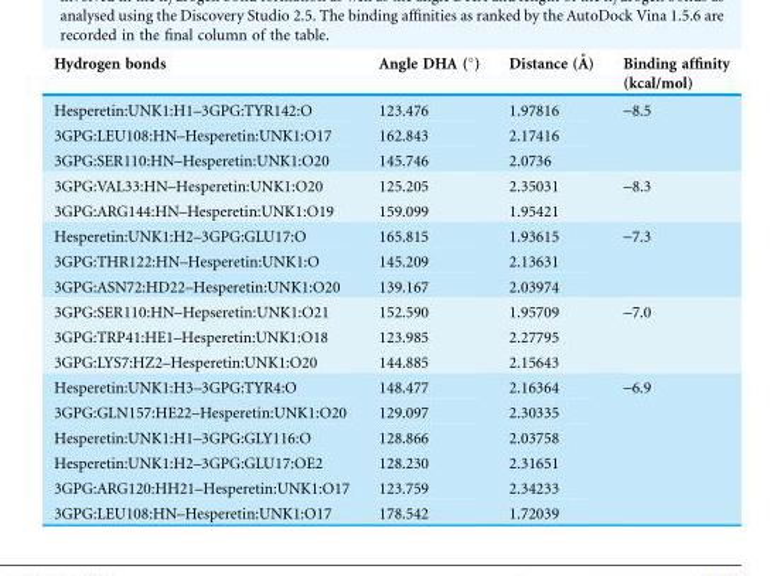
<table><thead><tr><td>Hydrogen bonds</td><td>Angle DHA (°)</td><td>Distance (A˚ )</td><td>Binding affinity (kcal/mol)</td></tr></thead><tbody><tr><td>Hesperetin:UNK1:H1–3GPG:TYR142:O</td><td>123.476</td><td>1.97816</td><td rowspan="3">-8.5</td></tr><tr><td>3GPG:LEU108:HN–Hesperetin:UNK1:O17</td><td>162.843</td><td>2.17416</td></tr><tr><td>3GPG:SER110:HN–Hesperetin:UNK1:O20</td><td>145.746</td><td>2.0736</td></tr><tr><td>3GPG:VAL33:HN–Hesperetin:UNK1:O20</td><td>125.205</td><td>2.35031</td><td rowspan="2">-8.3</td></tr><tr><td>3GPG:ARG144:HN–Hesperetin:UNK1:O19</td><td>159.099</td><td>1.95421</td></tr><tr><td>Hesperetin:UNK1:H2–3GPG:GLU17:O</td><td>165.815</td><td>1.93615</td><td rowspan="3">-7.3</td></tr><tr><td>3GPG:THR122:HN–Hesperetin:UNK1:O</td><td>145.209</td><td>2.13631</td></tr><tr><td>3GPG:ASN72:HD22–Hesperetin:UNK1:O20</td><td>139.167</td><td>2.03974</td></tr><tr><td>3GPG:SER110:HN–Hepseretin:UNK1:O21</td><td>152.590</td><td>1.95709</td><td rowspan="3">-7.0</td></tr><tr><td>3GPG:TRP41:HE1–Hesperetin:UNK1:O18</td><td>123.985</td><td>2.27795</td></tr><tr><td>3GPG:LYS7:HZ2–Hesperetin:UNK1:O20</td><td>144.885</td><td>2.15643</td></tr><tr><td>Hesperetin:UNK1:H3–3GPG:TYR4:O</td><td>148.477</td><td>2.16364</td><td rowspan="6">-6.9</td></tr><tr><td>3GPG:GLN157:HE22–Hesperetin:UNK1:O20</td><td>129.097</td><td>2.30335</td></tr><tr><td>Hesperetin:UNK1:H1–3GPG:GLY116:O</td><td>128.866</td><td>2.03758</td></tr><tr><td>Hesperetin:UNK1:H2–3GPG:GLU17:OE2</td><td>128.230</td><td>2.31651</td></tr><tr><td>3GPG:ARG120:HH21–Hesperetin:UNK1:O17</td><td>123.759</td><td>2.34233</td></tr><tr><td>3GPG:LEU108:HN–Hesperetin:UNK1:O17</td><td>178.542</td><td>1.72039</td></tr></tbody></table>